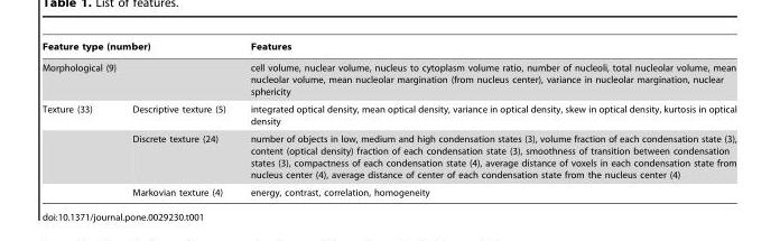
<table><thead><tr><td rowspan="2" colspan="2">Feature type (number) Morphological (9)</td><td rowspan="3">Features cell volume, nuclear volume, nucleus to cytoplasm volume ratio, number of nucleoli, total nucleolar volume, mean nucleolar volume, mean nucleolar margination (from nucleus center), variance in nucleolar margination, nuclear sphericity integrated optical density, mean optical density, variance in optical density, skew in optical density, kurtosis in optical density</td></tr><tr></tr><tr><td>Texture (33)</td><td>Descriptive texture (5)</td></tr></thead><tbody><tr><td></td><td>Discrete texture (24)</td><td>number of objects in low, medium and high condensation states (3), volume fraction of each condensation state (3), content (optical density) fraction of each condensation state (3), smoothness of transition between condensation states (3), compactness of each condensation state (4), average distance of voxels in each condensation state from nucleus center (4), average distance of center of each condensation state from the nucleus center (4)</td></tr><tr><td></td><td>Markovian texture (4)</td><td>energy, contrast, correlation, homogeneity</td></tr></tbody></table>